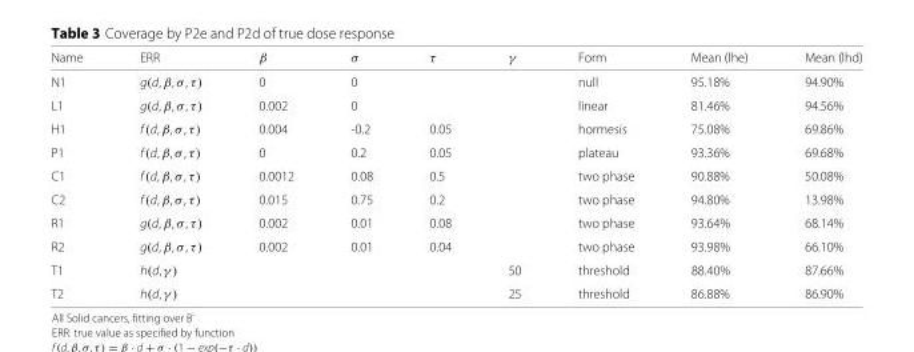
<table><thead><tr><td>Name</td><td>ERR</td><td>β</td><td>σ</td><td>τ</td><td>γ</td><td>Form</td><td>Mean (lhe)</td><td>Mean (lhd)</td></tr></thead><tbody><tr><td>N1</td><td>g(d, β, σ, τ)</td><td>0</td><td>0</td><td></td><td></td><td>null</td><td>95.18%</td><td>94.90%</td></tr><tr><td>L1</td><td>g(d, β, σ, τ)</td><td>0.002</td><td>0</td><td></td><td></td><td>linear</td><td>81.46%</td><td>94.56%</td></tr><tr><td>H1</td><td>f(d, β, σ, τ)</td><td>0.004</td><td>-0.2</td><td>0.05</td><td></td><td>hormesis</td><td>75.08%</td><td>69.86%</td></tr><tr><td>P1</td><td>f(d, β, σ, τ)</td><td>0</td><td>0.2</td><td>0.05</td><td></td><td>plateau</td><td>93.36%</td><td>69.68%</td></tr><tr><td>C1</td><td>f(d, β, σ, τ)</td><td>0.0012</td><td>0.08</td><td>0.5</td><td></td><td>two phase</td><td>90.88%</td><td>50.08%</td></tr><tr><td>C2</td><td>f(d, β, σ, τ)</td><td>0.015</td><td>0.75</td><td>0.2</td><td></td><td>two phase</td><td>94.80%</td><td>13.98%</td></tr><tr><td>R1</td><td>g(d, β, σ, τ)</td><td>0.002</td><td>0.01</td><td>0.08</td><td></td><td>two phase</td><td>93.64%</td><td>68.14%</td></tr><tr><td>R2</td><td>g(d, β, σ, τ)</td><td>0.002</td><td>0.01</td><td>0.04</td><td></td><td>two phase</td><td>93.98%</td><td>66.10%</td></tr><tr><td>T1</td><td>h(d, γ )</td><td></td><td></td><td></td><td>50</td><td>threshold</td><td>88.40%</td><td>87.66%</td></tr><tr><td>T2</td><td>h(d, γ )</td><td></td><td></td><td></td><td>25</td><td>threshold</td><td>86.88%</td><td>86.90%</td></tr></tbody></table>